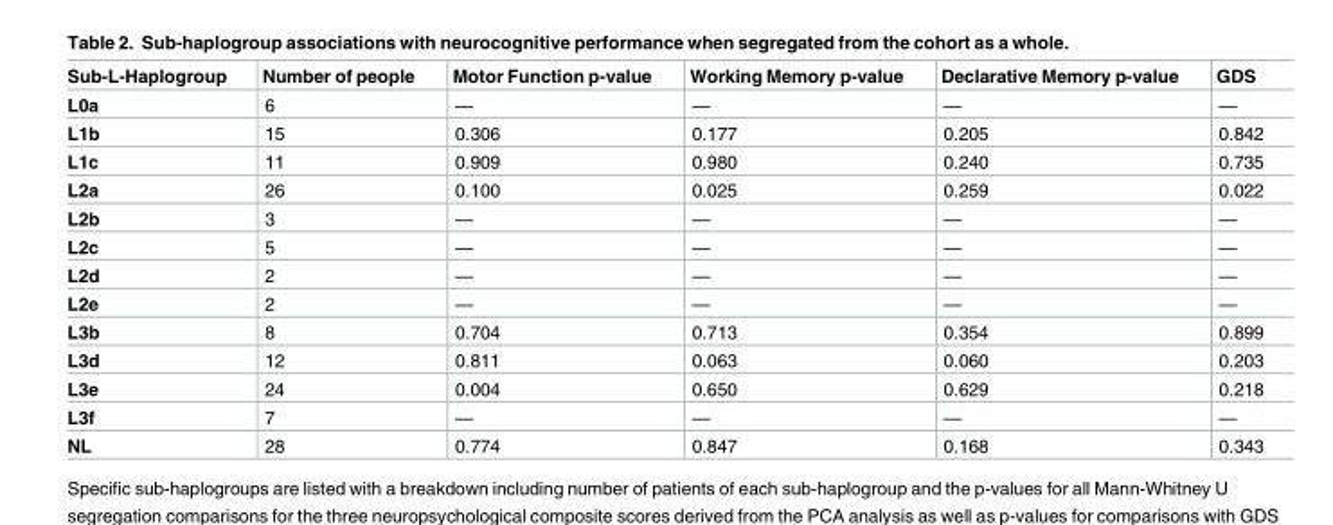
<table><thead><tr><td>Sub-L-Haplogroup</td><td>Number of people</td><td>Motor Function p-value</td><td>Working Memory p-value</td><td>Declarative Memory p-value</td><td>GDS</td></tr></thead><tbody><tr><td>L0a</td><td>6</td><td>—</td><td>—</td><td>—</td><td>—</td></tr><tr><td>L1b</td><td>15</td><td>0.306</td><td>0.177</td><td>0.205</td><td>0.842</td></tr><tr><td>L1c</td><td>11</td><td>0.909</td><td>0.980</td><td>0.240</td><td>0.735</td></tr><tr><td>L2a</td><td>26</td><td>0.100</td><td>0.025</td><td>0.259</td><td>0.022</td></tr><tr><td>L2b</td><td>3</td><td>—</td><td>—</td><td>—</td><td>—</td></tr><tr><td>L2c</td><td>5</td><td>—</td><td>—</td><td>—</td><td>—</td></tr><tr><td>L2d</td><td>2</td><td>—</td><td>—</td><td>—</td><td>—</td></tr><tr><td>L2e</td><td>2</td><td>—</td><td>—</td><td>—</td><td>—</td></tr><tr><td>L3b</td><td>8</td><td>0.704</td><td>0.713</td><td>0.354</td><td>0.899</td></tr><tr><td>L3d</td><td>12</td><td>0.811</td><td>0.063</td><td>0.060</td><td>0.203</td></tr><tr><td>L3e</td><td>24</td><td>0.004</td><td>0.650</td><td>0.629</td><td>0.218</td></tr><tr><td>L3f</td><td>7</td><td>—</td><td>—</td><td>—</td><td>—</td></tr><tr><td>NL</td><td>28</td><td>0.774</td><td>0.847</td><td>0.168</td><td>0.343</td></tr></tbody></table>